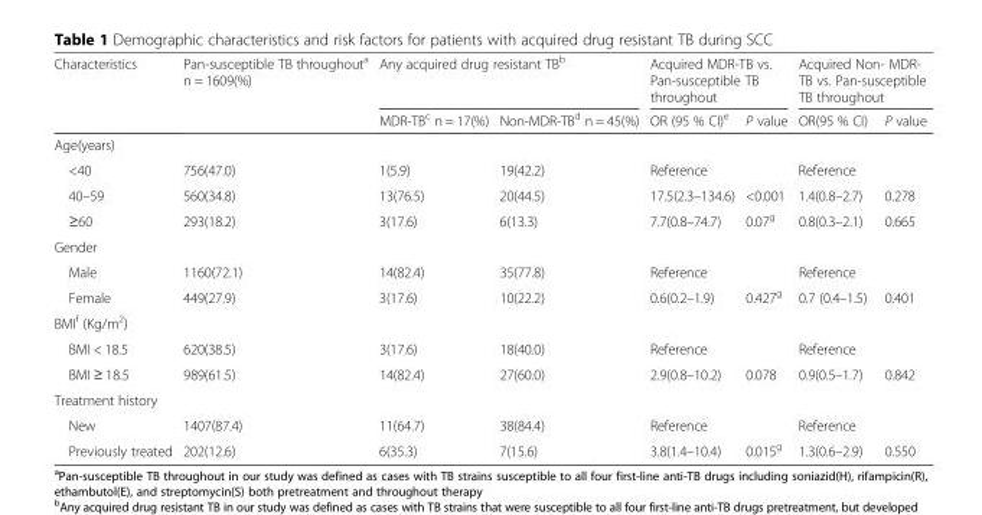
<table><thead><tr><td rowspan="2">Characteristics</td><td rowspan="2">Pan-susceptible TB throughout<sup>a</sup> n = 1609(%)</td><td colspan="2">Any acquired drug resistant TB<sup>b</sup></td><td colspan="2">Acquired MDR-TB vs. Pan-susceptible TB throughout</td><td colspan="2">Acquired Non- MDR- TB vs. Pan-susceptible TB throughout</td></tr><tr><td>MDR-TB<sup>c</sup> n = 17(%)</td><td>Non-MDR-TB<sup>d</sup> n = 45(%)</td><td>OR (95 % CI)<sup>e</sup></td><td>P value</td><td>OR(95 % CI)</td><td>P value</td></tr></thead><tbody><tr><td colspan="8">Age(years)</td></tr><tr><td>&lt;40</td><td>756(47.0)</td><td>1(5.9)</td><td>19(42.2)</td><td>Reference</td><td></td><td>Reference</td><td></td></tr><tr><td>40–59</td><td>560(34.8)</td><td>13(76.5)</td><td>20(44.5)</td><td>17.5(2.3–134.6)</td><td>&lt;0.001</td><td>1.4(0.8–2.7)</td><td>0.278</td></tr><tr><td>≥60</td><td>293(18.2)</td><td>3(17.6)</td><td>6(13.3)</td><td>7.7(0.8–74.7)</td><td>0.07<sup>g</sup></td><td>0.8(0.3–2.1)</td><td>0.665</td></tr><tr><td colspan="8">Gender</td></tr><tr><td>Male</td><td>1160(72.1)</td><td>14(82.4)</td><td>35(77.8)</td><td>Reference</td><td></td><td>Reference</td><td></td></tr><tr><td>Female</td><td>449(27.9)</td><td>3(17.6)</td><td>10(22.2)</td><td>0.6(0.2–1.9)</td><td>0.427<sup>g</sup></td><td>0.7 (0.4–1.5)</td><td>0.401</td></tr><tr><td colspan="8">BMI<sup>f</sup> (Kg/m<sup>2</sup>)</td></tr><tr><td>BMI &lt; 18.5</td><td>620(38.5)</td><td>3(17.6)</td><td>18(40.0)</td><td>Reference</td><td></td><td>Reference</td><td></td></tr><tr><td>BMI ≥ 18.5</td><td>989(61.5)</td><td>14(82.4)</td><td>27(60.0)</td><td>2.9(0.8–10.2)</td><td>0.078</td><td>0.9(0.5–1.7)</td><td>0.842</td></tr><tr><td colspan="8">Treatment history</td></tr><tr><td>New</td><td>1407(87.4)</td><td>11(64.7)</td><td>38(84.4)</td><td>Reference</td><td></td><td>Reference</td><td></td></tr><tr><td>Previously treated</td><td>202(12.6)</td><td>6(35.3)</td><td>7(15.6)</td><td>3.8(1.4–10.4)</td><td>0.015<sup>g</sup></td><td>1.3(0.6–2.9)</td><td>0.550</td></tr></tbody></table>